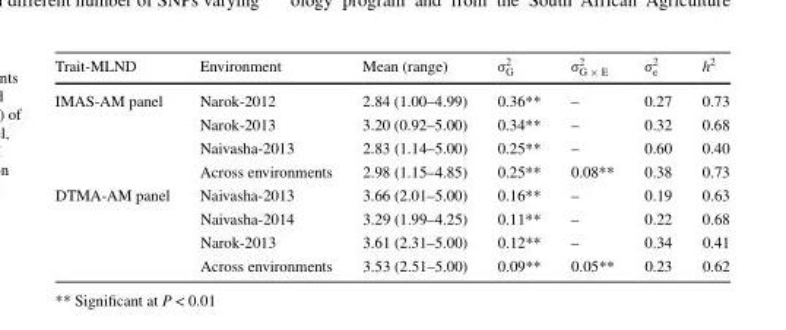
<table><thead><tr><td>Trait-MLND</td><td>Environment</td><td>Mean (range)</td><td>σ<sub>G</sub> <sup>2</sup></td><td>σ2 G × E</td><td>σ<sub>e</sub> <sup>2</sup></td><td>h<sup>2</sup></td></tr></thead><tbody><tr><td rowspan="4">IMAS-AM panel</td><td>Narok-2012</td><td>2.84 (1.00–4.99)</td><td>0.36**</td><td>–</td><td>0.27</td><td>0.73</td></tr><tr><td>Narok-2013</td><td>3.20 (0.92–5.00)</td><td>0.34**</td><td>–</td><td>0.32</td><td>0.68</td></tr><tr><td>Naivasha-2013</td><td>2.83 (1.14–5.00)</td><td>0.25**</td><td>–</td><td>0.60</td><td>0.40</td></tr><tr><td>Across environments</td><td>2.98 (1.15–4.85)</td><td>0.25**</td><td>0.08**</td><td>0.38</td><td>0.73</td></tr><tr><td rowspan="4">DTMA-AM panel</td><td>Naivasha-2013</td><td>3.66 (2.01–5.00)</td><td>0.16**</td><td>–</td><td>0.19</td><td>0.63</td></tr><tr><td>Naivasha-2014</td><td>3.29 (1.99–4.25)</td><td>0.11**</td><td>–</td><td>0.22</td><td>0.68</td></tr><tr><td>Narok-2013</td><td>3.61 (2.31–5.00)</td><td>0.12**</td><td>–</td><td>0.34</td><td>0.41</td></tr><tr><td>Across environments</td><td>3.53 (2.51–5.00)</td><td>0.09**</td><td>0.05**</td><td>0.23</td><td>0.62</td></tr></tbody></table>